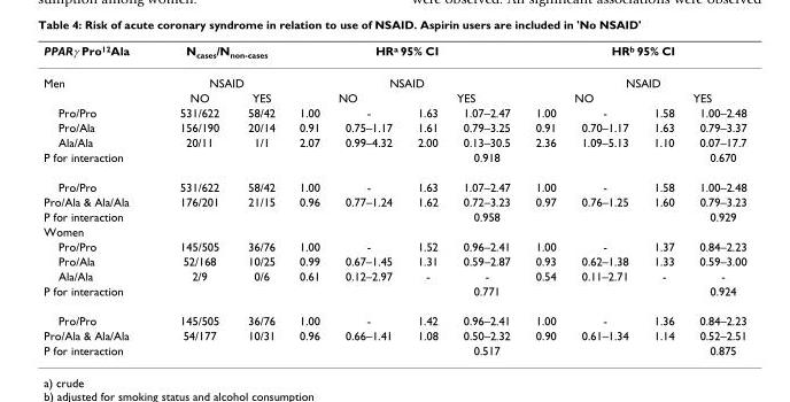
<table><thead><tr><td rowspan="4">PPARγ Pro<sup>12</sup>Ala Men Pro/Pro</td><td rowspan="2" colspan="2">N<sub>cases</sub>/N<sub>non-cases</sub> NSAID</td><td rowspan="2" colspan="4">HR<sup>a</sup> 95% CI NSAID</td><td rowspan="2" colspan="4">HR<sup>b</sup> 95% CI NSAID</td></tr><tr></tr><tr><td rowspan="2">NO 531/622</td><td rowspan="2">YES 58/42</td><td colspan="2">NO</td><td colspan="2">YES</td><td colspan="2">NO</td><td colspan="2">YES</td></tr><tr><td>1.00</td><td>-</td><td>1.63</td><td>1.07–2.47</td><td>1.00</td><td>-</td><td>1.58</td><td>1.00–2.48</td></tr></thead><tbody><tr><td>Pro/Ala</td><td>156/190</td><td>20/14</td><td>0.91</td><td>0.75–1.17</td><td>1.61</td><td>0.79–3.25</td><td>0.91</td><td>0.70–1.17</td><td>1.63</td><td>0.79–3.37</td></tr><tr><td>Ala/Ala</td><td>20/11</td><td>1/1</td><td>2.07</td><td>0.99–4.32</td><td>2.00</td><td>0.13–30.5</td><td>2.36</td><td>1.09–5.13</td><td>1.10</td><td>0.07–17.7</td></tr><tr><td>P for interaction</td><td></td><td></td><td></td><td></td><td></td><td>0.918</td><td></td><td></td><td></td><td>0.670</td></tr><tr><td>Pro/Pro</td><td>531/622</td><td>58/42</td><td>1.00</td><td>-</td><td>1.63</td><td>1.07–2.47</td><td>1.00</td><td>-</td><td>1.58</td><td>1.00–2.48</td></tr><tr><td>Pro/Ala &amp; Ala/Ala</td><td>176/201</td><td>21/15</td><td>0.96</td><td>0.77–1.24</td><td>1.62</td><td>0.72–3.23</td><td>0.97</td><td>0.76–1.25</td><td>1.60</td><td>0.79–3.23</td></tr><tr><td>P for interaction</td><td></td><td></td><td></td><td></td><td></td><td>0.958</td><td></td><td></td><td></td><td>0.929</td></tr><tr><td colspan="11">Women</td></tr><tr><td>Pro/Pro</td><td>145/505</td><td>36/76</td><td>1.00</td><td>-</td><td>1.52</td><td>0.96–2.41</td><td>1.00</td><td>-</td><td>1.37</td><td>0.84–2.23</td></tr><tr><td>Pro/Ala</td><td>52/168</td><td>10/25</td><td>0.99</td><td>0.67–1.45</td><td>1.31</td><td>0.59–2.87</td><td>0.93</td><td>0.62–1.38</td><td>1.33</td><td>0.59–3.00</td></tr><tr><td>Ala/Ala</td><td>2/9</td><td>0/6</td><td>0.61</td><td>0.12–2.97</td><td>-</td><td>-</td><td>0.54</td><td>0.11–2.71</td><td>-</td><td>-</td></tr><tr><td>P for interaction</td><td></td><td></td><td></td><td></td><td></td><td>0.771</td><td></td><td></td><td></td><td>0.924</td></tr><tr><td>Pro/Pro</td><td>145/505</td><td>36/76</td><td>1.00</td><td>-</td><td>1.42</td><td>0.96–2.41</td><td>1.00</td><td>-</td><td>1.36</td><td>0.84–2.23</td></tr><tr><td>Pro/Ala &amp; Ala/Ala</td><td>54/177</td><td>10/31</td><td>0.96</td><td>0.66–1.41</td><td>1.08</td><td>0.50–2.32</td><td>0.90</td><td>0.61–1.34</td><td>1.14</td><td>0.52–2.51</td></tr><tr><td>P for interaction</td><td></td><td></td><td></td><td></td><td></td><td>0.517</td><td></td><td></td><td></td><td>0.875</td></tr></tbody></table>